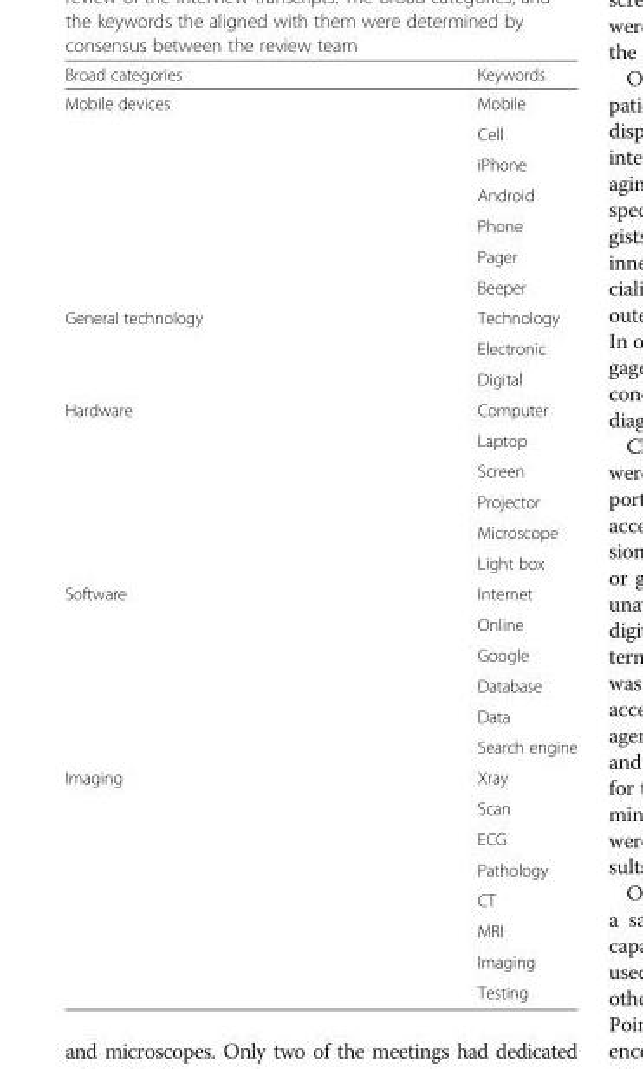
<table><thead><tr><td>Broad categories</td><td>Keywords</td></tr></thead><tbody><tr><td rowspan="7">Mobile devices</td><td>Mobile</td></tr><tr><td>Cell</td></tr><tr><td>iPhone</td></tr><tr><td>Android</td></tr><tr><td>Phone</td></tr><tr><td>Pager</td></tr><tr><td>Beeper</td></tr><tr><td rowspan="3">General technology</td><td>Technology</td></tr><tr><td>Electronic</td></tr><tr><td>Digital</td></tr><tr><td rowspan="6">Hardware</td><td>Computer</td></tr><tr><td>Laptop</td></tr><tr><td>Screen</td></tr><tr><td>Projector</td></tr><tr><td>Microscope</td></tr><tr><td>Light box</td></tr><tr><td rowspan="6">Software</td><td>Internet</td></tr><tr><td>Online</td></tr><tr><td>Google</td></tr><tr><td>Database</td></tr><tr><td>Data</td></tr><tr><td>Search engine</td></tr><tr><td rowspan="8">Imaging</td><td>Xray</td></tr><tr><td>Scan</td></tr><tr><td>ECG</td></tr><tr><td>Pathology</td></tr><tr><td>CT</td></tr><tr><td>MRI</td></tr><tr><td>Imaging</td></tr><tr><td>Testing</td></tr></tbody></table>